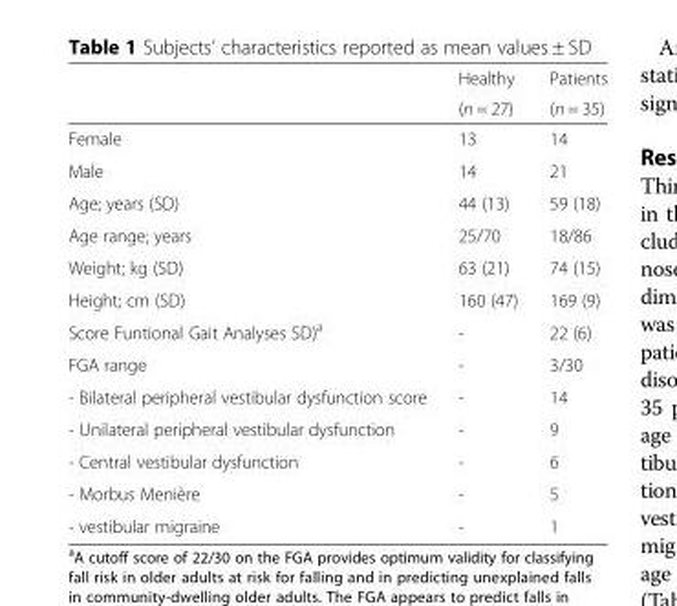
<table><thead><tr><td rowspan="2"></td><td rowspan="2">Healthy (n = 27)</td><td rowspan="2">Patients (n = 35)</td></tr><tr></tr></thead><tbody><tr><td>Female</td><td>13</td><td>14</td></tr><tr><td>Male</td><td>14</td><td>21</td></tr><tr><td>Age; years (SD)</td><td>44 (13)</td><td>59 (18)</td></tr><tr><td>Age range; years</td><td>25/70</td><td>18/86</td></tr><tr><td>Weight; kg (SD)</td><td>63 (21)</td><td>74 (15)</td></tr><tr><td>Height; cm (SD)</td><td>160 (47)</td><td>169 (9)</td></tr><tr><td>Score Funtional Gait Analyses SD)<sup>a</sup></td><td>-</td><td>22 (6)</td></tr><tr><td>FGA range</td><td>-</td><td>3/30</td></tr><tr><td>- Bilateral peripheral vestibular dysfunction score</td><td>-</td><td>14</td></tr><tr><td>- Unilateral peripheral vestibular dysfunction</td><td>-</td><td>9</td></tr><tr><td>- Central vestibular dysfunction</td><td>-</td><td>6</td></tr><tr><td>- Morbus Menière</td><td>-</td><td>5</td></tr><tr><td>- vestibular migraine</td><td>-</td><td>1</td></tr></tbody></table>